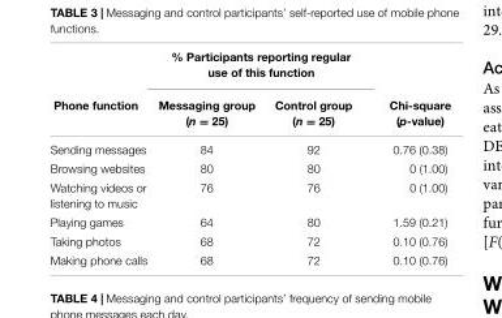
<table><thead><tr><td rowspan="2">Phone function</td><td colspan="2">% Participants reporting regular use of this function</td><td rowspan="2">Chi-square (p-value)</td></tr><tr><td>Messaging group (n = 25)</td><td>Control group (n = 25)</td></tr></thead><tbody><tr><td>Sending messages</td><td>84</td><td>92</td><td>0.76 (0.38)</td></tr><tr><td>Browsing websites</td><td>80</td><td>80</td><td>0 (1.00)</td></tr><tr><td>Watching videos or listening to music</td><td>76</td><td>76</td><td>0 (1.00)</td></tr><tr><td>Playing games</td><td>64</td><td>80</td><td>1.59 (0.21)</td></tr><tr><td>Taking photos</td><td>68</td><td>72</td><td>0.10 (0.76)</td></tr><tr><td>Making phone calls</td><td>68</td><td>72</td><td>0.10 (0.76)</td></tr></tbody></table>